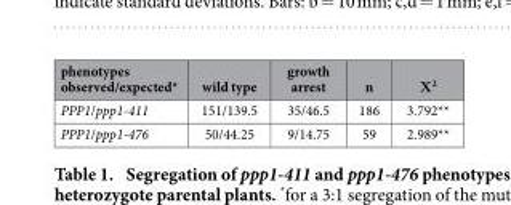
<table><thead><tr><td>phenotypes observed/expected*</td><td>wild type</td><td>growth arrest</td><td>n</td><td>Χ2</td></tr></thead><tbody><tr><td>PPP1/ppp1-411</td><td>151/139.5</td><td>35/46.5</td><td>186</td><td>3.792**</td></tr><tr><td>PPP1/ppp1-476</td><td>50/44.25</td><td>9/14.75</td><td>59</td><td>2.989**</td></tr></tbody></table>